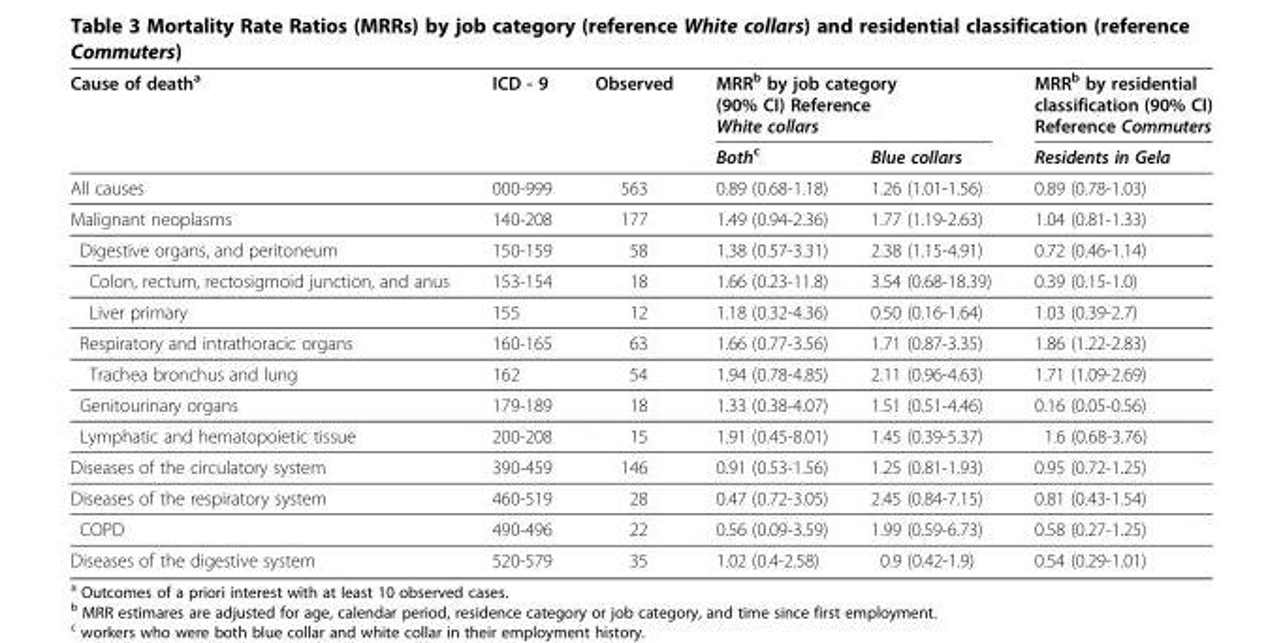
<table><thead><tr><td rowspan="2">Cause of death<sup>a</sup></td><td rowspan="2">ICD - 9</td><td rowspan="2">Observed</td><td colspan="2">MRR<sup>b</sup> by job category (90% CI) Reference White collars</td><td rowspan="2">MRR<sup>b</sup> by residential classification (90% CI) Reference Commuters Residents in Gela</td></tr><tr><td>Both<sup>c</sup></td><td>Blue collars</td></tr></thead><tbody><tr><td>All causes</td><td>000-999</td><td>563</td><td>0.89 (0.68-1.18)</td><td>1.26 (1.01-1.56)</td><td>0.89 (0.78-1.03)</td></tr><tr><td>Malignant neoplasms</td><td>140-208</td><td>177</td><td>1.49 (0.94-2.36)</td><td>1.77 (1.19-2.63)</td><td>1.04 (0.81-1.33)</td></tr><tr><td>Digestive organs, and peritoneum</td><td>150-159</td><td>58</td><td>1.38 (0.57-3.31)</td><td>2.38 (1.15-4.91)</td><td>0.72 (0.46-1.14)</td></tr><tr><td>Colon, rectum, rectosigmoid junction, and anus</td><td>153-154</td><td>18</td><td>1.66 (0.23-11.8)</td><td>3.54 (0.68-18.39)</td><td>0.39 (0.15-1.0)</td></tr><tr><td>Liver primary</td><td>155</td><td>12</td><td>1.18 (0.32-4.36)</td><td>0.50 (0.16-1.64)</td><td>1.03 (0.39-2.7)</td></tr><tr><td>Respiratory and intrathoracic organs</td><td>160-165</td><td>63</td><td>1.66 (0.77-3.56)</td><td>1.71 (0.87-3.35)</td><td>1.86 (1.22-2.83)</td></tr><tr><td>Trachea bronchus and lung</td><td>162</td><td>54</td><td>1.94 (0.78-4.85)</td><td>2.11 (0.96-4.63)</td><td>1.71 (1.09-2.69)</td></tr><tr><td>Genitourinary organs</td><td>179-189</td><td>18</td><td>1.33 (0.38-4.07)</td><td>1.51 (0.51-4.46)</td><td>0.16 (0.05-0.56)</td></tr><tr><td>Lymphatic and hematopoietic tissue</td><td>200-208</td><td>15</td><td>1.91 (0.45-8.01)</td><td>1.45 (0.39-5.37)</td><td>1.6 (0.68-3.76)</td></tr><tr><td>Diseases of the circulatory system</td><td>390-459</td><td>146</td><td>0.91 (0.53-1.56)</td><td>1.25 (0.81-1.93)</td><td>0.95 (0.72-1.25)</td></tr><tr><td>Diseases of the respiratory system</td><td>460-519</td><td>28</td><td>0.47 (0.72-3.05)</td><td>2.45 (0.84-7.15)</td><td>0.81 (0.43-1.54)</td></tr><tr><td>COPD</td><td>490-496</td><td>22</td><td>0.56 (0.09-3.59)</td><td>1.99 (0.59-6.73)</td><td>0.58 (0.27-1.25)</td></tr><tr><td>Diseases of the digestive system</td><td>520-579</td><td>35</td><td>1.02 (0.4-2.58)</td><td>0.9 (0.42-1.9)</td><td>0.54 (0.29-1.01)</td></tr></tbody></table>